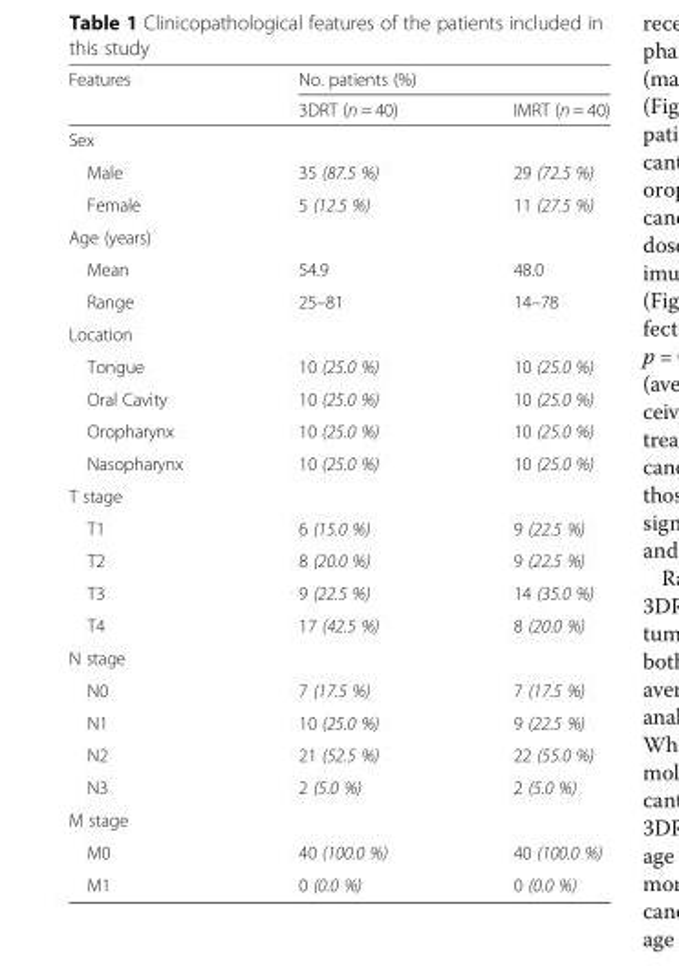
<table><thead><tr><td rowspan="2">Features</td><td colspan="2">No. patients (%)</td></tr><tr><td>3DRT (n = 40)</td><td>IMRT (n = 40)</td></tr></thead><tbody><tr><td colspan="3">Sex</td></tr><tr><td>Male</td><td>35 (87.5 %)</td><td>29 (72.5 %)</td></tr><tr><td>Female</td><td>5 (12.5 %)</td><td>11 (27.5 %)</td></tr><tr><td colspan="3">Age (years)</td></tr><tr><td>Mean</td><td>54.9</td><td>48.0</td></tr><tr><td>Range</td><td>25–81</td><td>14–78</td></tr><tr><td colspan="3">Location</td></tr><tr><td>Tongue</td><td>10 (25.0 %)</td><td>10 (25.0 %)</td></tr><tr><td>Oral Cavity</td><td>10 (25.0 %)</td><td>10 (25.0 %)</td></tr><tr><td>Oropharynx</td><td>10 (25.0 %)</td><td>10 (25.0 %)</td></tr><tr><td>Nasopharynx</td><td>10 (25.0 %)</td><td>10 (25.0 %)</td></tr><tr><td colspan="3">T stage</td></tr><tr><td>T1</td><td>6 (15.0 %)</td><td>9 (22.5 %)</td></tr><tr><td>T2</td><td>8 (20.0 %)</td><td>9 (22.5 %)</td></tr><tr><td>T3</td><td>9 (22.5 %)</td><td>14 (35.0 %)</td></tr><tr><td>T4</td><td>17 (42.5 %)</td><td>8 (20.0 %)</td></tr><tr><td colspan="3">N stage</td></tr><tr><td>N0</td><td>7 (17.5 %)</td><td>7 (17.5 %)</td></tr><tr><td>N1</td><td>10 (25.0 %)</td><td>9 (22.5 %)</td></tr><tr><td>N2</td><td>21 (52.5 %)</td><td>22 (55.0 %)</td></tr><tr><td>N3</td><td>2 (5.0 %)</td><td>2 (5.0 %)</td></tr><tr><td colspan="3">M stage</td></tr><tr><td>M0</td><td>40 (100.0 %)</td><td>40 (100.0 %)</td></tr><tr><td>M1</td><td>0 (0.0 %)</td><td>0 (0.0 %)</td></tr></tbody></table>